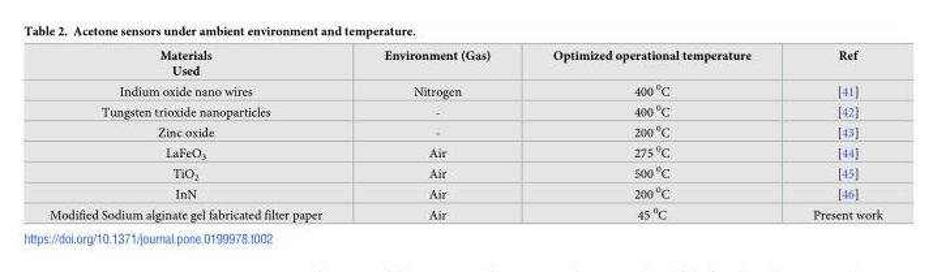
<table><thead><tr><td>Materials Used</td><td>Environment (Gas)</td><td>Optimized operational temperature</td><td>Ref</td></tr></thead><tbody><tr><td>Indium oxide nano wires</td><td>Nitrogen</td><td>400 <sup>0</sup>C</td><td>[41]</td></tr><tr><td>Tungsten trioxide nanoparticles</td><td>-</td><td>400 <sup>0</sup>C</td><td>[42]</td></tr><tr><td>Zinc oxide</td><td>-</td><td>200 <sup>0</sup>C</td><td>[43]</td></tr><tr><td>LaFeO<sub>3</sub></td><td>Air</td><td>275 <sup>0</sup>C</td><td>[44]</td></tr><tr><td>TiO<sub>2</sub></td><td>Air</td><td>500 <sup>0</sup>C</td><td>[45]</td></tr><tr><td>InN</td><td>Air</td><td>200 <sup>0</sup>C</td><td>[46]</td></tr><tr><td>Modified Sodium alginate gel fabricated filter paper</td><td>Air</td><td>45 <sup>0</sup>C</td><td>Present work</td></tr></tbody></table>